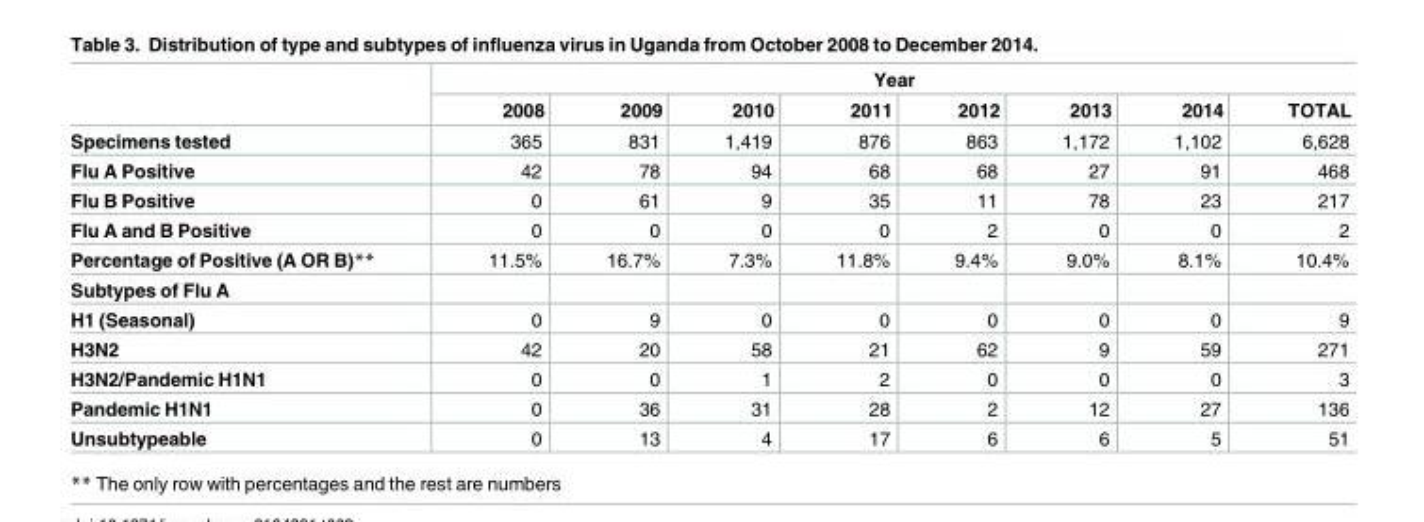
<table><thead><tr><td rowspan="2"></td><td colspan="8">Year</td></tr><tr><td>2008</td><td>2009</td><td>2010</td><td>2011</td><td>2012</td><td>2013</td><td>2014</td><td>TOTAL</td></tr></thead><tbody><tr><td>Specimens tested</td><td>365</td><td>831</td><td>1,419</td><td>876</td><td>863</td><td>1,172</td><td>1,102</td><td>6,628</td></tr><tr><td>Flu A Positive</td><td>42</td><td>78</td><td>94</td><td>68</td><td>68</td><td>27</td><td>91</td><td>468</td></tr><tr><td>Flu B Positive</td><td>0</td><td>61</td><td>9</td><td>35</td><td>11</td><td>78</td><td>23</td><td>217</td></tr><tr><td>Flu A and B Positive</td><td>0</td><td>0</td><td>0</td><td>0</td><td>2</td><td>0</td><td>0</td><td>2</td></tr><tr><td>Percentage of Positive (A OR B)**</td><td>11.5%</td><td>16.7%</td><td>7.3%</td><td>11.8%</td><td>9.4%</td><td>9.0%</td><td>8.1%</td><td>10.4%</td></tr><tr><td colspan="9">Subtypes of Flu A</td></tr><tr><td>H1 (Seasonal)</td><td>0</td><td>9</td><td>0</td><td>0</td><td>0</td><td>0</td><td>0</td><td>9</td></tr><tr><td>H3N2</td><td>42</td><td>20</td><td>58</td><td>21</td><td>62</td><td>9</td><td>59</td><td>271</td></tr><tr><td>H3N2/Pandemic H1N1</td><td>0</td><td>0</td><td>1</td><td>2</td><td>0</td><td>0</td><td>0</td><td>3</td></tr><tr><td>Pandemic H1N1</td><td>0</td><td>36</td><td>31</td><td>28</td><td>2</td><td>12</td><td>27</td><td>136</td></tr><tr><td>Unsubtypeable</td><td>0</td><td>13</td><td>4</td><td>17</td><td>6</td><td>6</td><td>5</td><td>51</td></tr></tbody></table>